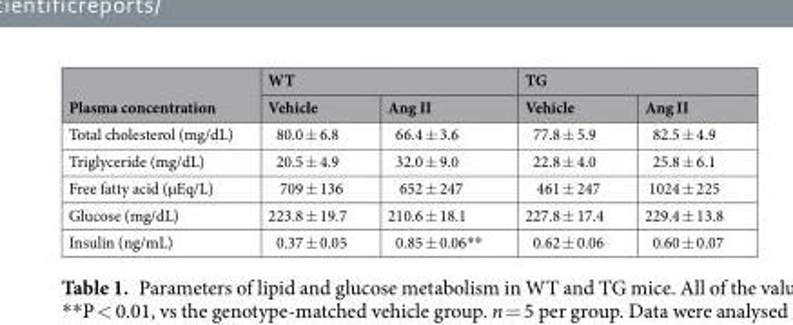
<table><thead><tr><td rowspan="2">Plasma concentration</td><td colspan="2">WT</td><td colspan="2">TG</td></tr><tr><td>Vehicle</td><td>Ang II</td><td>Vehicle</td><td>Ang II</td></tr></thead><tbody><tr><td>Total cholesterol (mg/dL)</td><td>80.0 ± 6.8</td><td>66.4 ± 3.6</td><td>77.8 ± 5.9</td><td>82.5 ± 4.9</td></tr><tr><td>Triglyceride (mg/dL)</td><td>20.5 ± 4.9</td><td>32.0 ± 9.0</td><td>22.8 ± 4.0</td><td>25.8 ± 6.1</td></tr><tr><td>Free fatty acid (µEq/L)</td><td>709 ± 136</td><td>652 ± 247</td><td>461 ± 247</td><td>1024 ± 225</td></tr><tr><td>Glucose (mg/dL)</td><td>223.8 ± 19.7</td><td>210.6 ± 18.1</td><td>227.8 ± 17.4</td><td>229.4 ± 13.8</td></tr><tr><td>Insulin (ng/mL)</td><td>0.37 ± 0.05</td><td>0.85 ± 0.06**</td><td>0.62 ± 0.06</td><td>0.60 ± 0.07</td></tr></tbody></table>